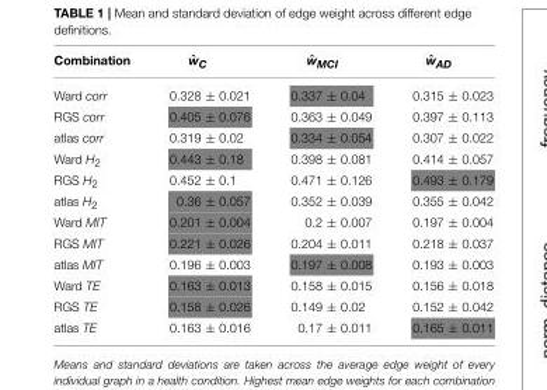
<table><thead><tr><td>Combination</td><td>ˆwC</td><td>ˆwMCI</td><td>ˆwAD</td></tr></thead><tbody><tr><td>Ward corr</td><td>0.328 ± 0.021</td><td>0.337 ± 0.04</td><td>0.315 ± 0.023</td></tr><tr><td>RGS corr</td><td>0.405 ± 0.076</td><td>0.363 ± 0.049</td><td>0.397 ± 0.113</td></tr><tr><td>atlas corr</td><td>0.319 ± 0.02</td><td>0.334 ± 0.054</td><td>0.307 ± 0.022</td></tr><tr><td>Ward H<sub>2</sub></td><td>0.443 ± 0.18</td><td>0.398 ± 0.081</td><td>0.414 ± 0.057</td></tr><tr><td>RGS H<sub>2</sub></td><td>0.452 ± 0.1</td><td>0.471 ± 0.126</td><td>0.493 ± 0.179</td></tr><tr><td>atlas H<sub>2</sub></td><td>0.36 ± 0.057</td><td>0.352 ± 0.039</td><td>0.355 ± 0.042</td></tr><tr><td>Ward MIT</td><td>0.201 ± 0.004</td><td>0.2 ± 0.007</td><td>0.197 ± 0.004</td></tr><tr><td>RGS MIT</td><td>0.221 ± 0.026</td><td>0.204 ± 0.011</td><td>0.218 ± 0.037</td></tr><tr><td>atlas MIT</td><td>0.196 ± 0.003</td><td>0.197 ± 0.008</td><td>0.193 ± 0.003</td></tr><tr><td>Ward TE</td><td>0.163 ± 0.013</td><td>0.158 ± 0.015</td><td>0.156 ± 0.018</td></tr><tr><td>RGS TE</td><td>0.158 ± 0.026</td><td>0.149 ± 0.02</td><td>0.152 ± 0.042</td></tr><tr><td>atlas TE</td><td>0.163 ± 0.016</td><td>0.17 ± 0.011</td><td>0.165 ± 0.011</td></tr></tbody></table>